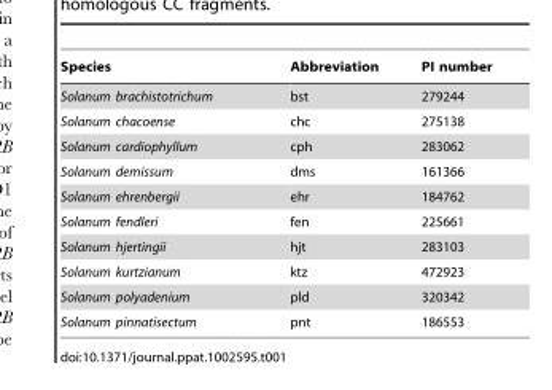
<table><thead><tr><td>Species</td><td>Abbreviation</td><td>PI number</td></tr></thead><tbody><tr><td>Solanum brachistotrichum</td><td>bst</td><td>279244</td></tr><tr><td>Solanum chacoense</td><td>chc</td><td>275138</td></tr><tr><td>Solanum cardiophyllum</td><td>cph</td><td>283062</td></tr><tr><td>Solanum demissum</td><td>dms</td><td>161366</td></tr><tr><td>Solanum ehrenbergii</td><td>ehr</td><td>184762</td></tr><tr><td>Solanum fendleri</td><td>fen</td><td>225661</td></tr><tr><td>Solanum hjertingii</td><td>hjt</td><td>283103</td></tr><tr><td>Solanum kurtzianum</td><td>ktz</td><td>472923</td></tr><tr><td>Solanum polyadenium</td><td>pld</td><td>320342</td></tr><tr><td>Solanum pinnatisectum</td><td>pnt</td><td>186553</td></tr></tbody></table>